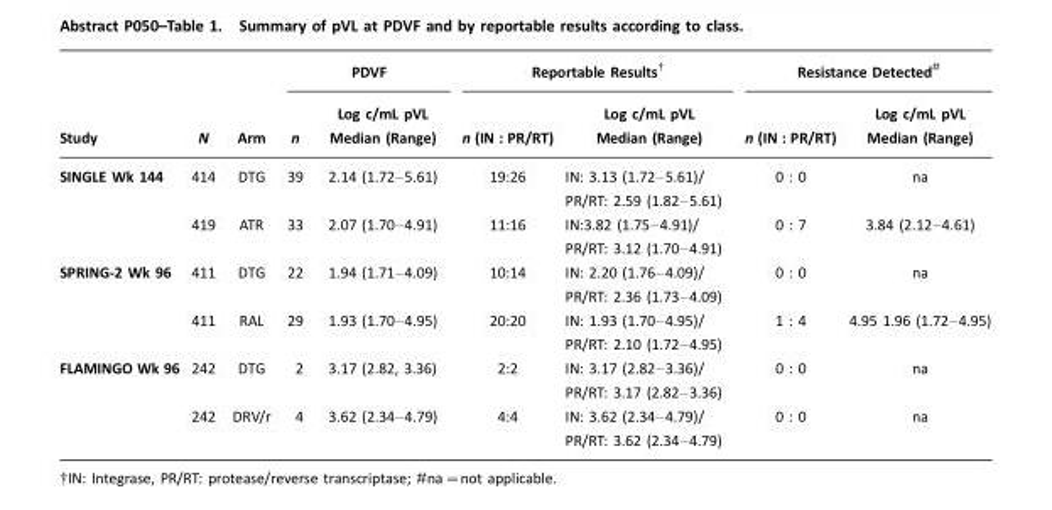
<table><thead><tr><td rowspan="2">Study</td><td rowspan="2">N</td><td rowspan="2">Arm</td><td colspan="2">PDVF</td><td colspan="2">Reportable Results†</td><td colspan="2">Resistance Detected#</td></tr><tr><td>n</td><td>Log c/mL pVL Median (Range)</td><td>n (IN : PR/RT)</td><td>Log c/mL pVL Median (Range)</td><td>n (IN : PR/RT)</td><td>Log c/mL pVL Median (Range)</td></tr></thead><tbody><tr><td rowspan="2">SINGLE Wk 144</td><td>414</td><td>DTG</td><td>39</td><td>2.14 (1.72–5.61)</td><td>19:26</td><td>IN: 3.13 (1.72–5.61)/ PR/RT: 2.59 (1.82–5.61)</td><td>0 : 0</td><td>na</td></tr><tr><td>419</td><td>ATR</td><td>33</td><td>2.07 (1.70–4.91)</td><td>11:16</td><td>IN:3.82 (1.75–4.91)/ PR/RT: 3.12 (1.70–4.91)</td><td>0 : 7</td><td>3.84 (2.12–4.61)</td></tr><tr><td rowspan="2">SPRING-2 Wk 96</td><td>411</td><td>DTG</td><td>22</td><td>1.94 (1.71–4.09)</td><td>10:14</td><td>IN: 2.20 (1.76–4.09)/ PR/RT: 2.36 (1.73–4.09)</td><td>0 : 0</td><td>na</td></tr><tr><td>411</td><td>RAL</td><td>29</td><td>1.93 (1.70–4.95)</td><td>20:20</td><td>IN: 1.93 (1.70–4.95)/ PR/RT: 2.10 (1.72–4.95)</td><td>1 : 4</td><td>4.95 1.96 (1.72–4.95)</td></tr><tr><td rowspan="2">FLAMINGO Wk 96</td><td>242</td><td>DTG</td><td>2</td><td>3.17 (2.82, 3.36)</td><td>2:2</td><td>IN: 3.17 (2.82–3.36)/ PR/RT: 3.17 (2.82–3.36)</td><td>0 : 0</td><td>na</td></tr><tr><td>242</td><td>DRV/r</td><td>4</td><td>3.62 (2.34–4.79)</td><td>4:4</td><td>IN: 3.62 (2.34–4.79)/ PR/RT: 3.62 (2.34–4.79)</td><td>0 : 0</td><td>na</td></tr></tbody></table>